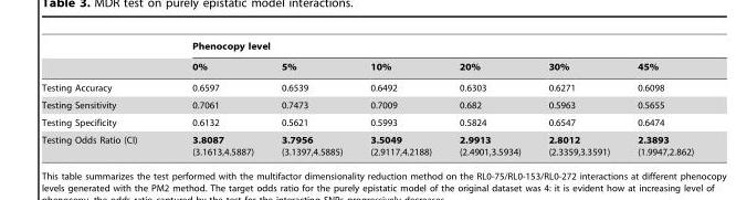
<table><thead><tr><td rowspan="2"></td><td colspan="6">Phenocopy level</td></tr><tr><td>0%</td><td>5%</td><td>10%</td><td>20%</td><td>30%</td><td>45%</td></tr></thead><tbody><tr><td>Testing Accuracy</td><td>0.6597</td><td>0.6539</td><td>0.6492</td><td>0.6303</td><td>0.6271</td><td>0.6098</td></tr><tr><td>Testing Sensitivity</td><td>0.7061</td><td>0.7473</td><td>0.7009</td><td>0.682</td><td>0.5963</td><td>0.5655</td></tr><tr><td>Testing Specificity</td><td>0.6132</td><td>0.5621</td><td>0.5993</td><td>0.5824</td><td>0.6547</td><td>0.6474</td></tr><tr><td>Testing Odds Ratio (CI)</td><td>3.8087 (3.1613,4.5887)</td><td>3.7956 (3.1397,4.5885)</td><td>3.5049 (2.9117,4.2188)</td><td>2.9913 (2.4901,3.5934)</td><td>2.8012 (2.3359,3.3591)</td><td>2.3893 (1.9947,2.862)</td></tr></tbody></table>